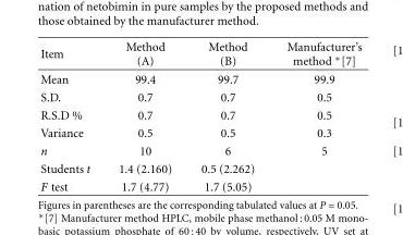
<table><thead><tr><td>Item</td><td>Method (A)</td><td>Method (B)</td><td>Manufacturer’s method ∗[7]</td></tr></thead><tbody><tr><td>Mean</td><td>99.4</td><td>99.7</td><td>99.9</td></tr><tr><td>S.D.</td><td>0.7</td><td>0.7</td><td>0.5</td></tr><tr><td>R.S.D %</td><td>0.7</td><td>0.7</td><td>0.5</td></tr><tr><td>Variance</td><td>0.5</td><td>0.5</td><td>0.3</td></tr><tr><td>n</td><td>10</td><td>6</td><td>5</td></tr><tr><td>Students t</td><td>1.4 (2.160)</td><td>0.5 (2.262)</td><td></td></tr><tr><td>F test</td><td>1.7 (4.77)</td><td>1.7 (5.05)</td><td></td></tr></tbody></table>